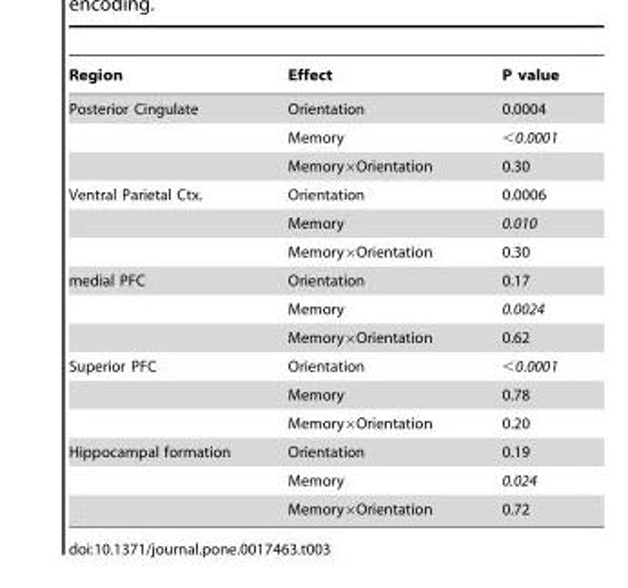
<table><thead><tr><td>Region</td><td>Effect</td><td>P value</td></tr></thead><tbody><tr><td rowspan="3">Posterior Cingulate</td><td>Orientation</td><td>0.0004</td></tr><tr><td>Memory</td><td>&lt;0.0001</td></tr><tr><td>Memory×Orientation</td><td>0.30</td></tr><tr><td rowspan="3">Ventral Parietal Ctx.</td><td>Orientation</td><td>0.0006</td></tr><tr><td>Memory</td><td>0.010</td></tr><tr><td>Memory×Orientation</td><td>0.30</td></tr><tr><td rowspan="3">medial PFC</td><td>Orientation</td><td>0.17</td></tr><tr><td>Memory</td><td>0.0024</td></tr><tr><td>Memory×Orientation</td><td>0.62</td></tr><tr><td rowspan="3">Superior PFC</td><td>Orientation</td><td>&lt;0.0001</td></tr><tr><td>Memory</td><td>0.78</td></tr><tr><td>Memory×Orientation</td><td>0.20</td></tr><tr><td rowspan="3">Hippocampal formation</td><td>Orientation</td><td>0.19</td></tr><tr><td>Memory</td><td>0.024</td></tr><tr><td>Memory×Orientation</td><td>0.72</td></tr></tbody></table>